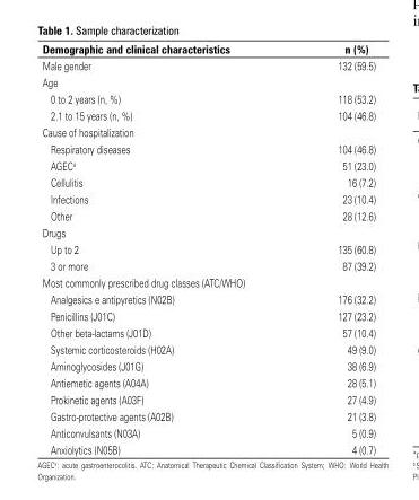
<table><thead><tr><td>Demographic and clinical characteristics</td><td>n (%)</td></tr></thead><tbody><tr><td>Male gender</td><td>132 (59.5)</td></tr><tr><td colspan="2">Age</td></tr><tr><td>0 to 2 years (n, %)</td><td>118 (53.2)</td></tr><tr><td>2.1 to 15 years (n, %)</td><td>104 (46.8)</td></tr><tr><td colspan="2">Cause of hospitalization</td></tr><tr><td>Respiratory diseases</td><td>104 (46.8)</td></tr><tr><td>AGEC<sup>a</sup></td><td>51 (23.0)</td></tr><tr><td>Cellulitis</td><td>16 (7.2)</td></tr><tr><td>Infections</td><td>23 (10.4)</td></tr><tr><td>Other</td><td>28 (12.6)</td></tr><tr><td colspan="2">Drugs</td></tr><tr><td>Up to 2</td><td>135 (60.8)</td></tr><tr><td>3 or more</td><td>87 (39.2)</td></tr><tr><td colspan="2">Most commonly prescribed drug classes (ATC/WHO)</td></tr><tr><td>Analgesics e antipyretics (N02B)</td><td>176 (32.2)</td></tr><tr><td>Penicillins (J01C)</td><td>127 (23.2)</td></tr><tr><td>Other beta-lactams (J01D)</td><td>57 (10.4)</td></tr><tr><td>Systemic corticosteroids (H02A)</td><td>49 (9.0)</td></tr><tr><td>Aminoglycosides (J01G)</td><td>38 (6.9)</td></tr><tr><td>Antiemetic agents (A04A)</td><td>28 (5.1)</td></tr><tr><td>Prokinetic agents (A03F)</td><td>27 (4.9)</td></tr><tr><td>Gastro-protective agents (A02B)</td><td>21 (3.8)</td></tr><tr><td>Anticonvulsants (N03A)</td><td>5 (0.9)</td></tr><tr><td>Anxiolytics (N05B)</td><td>4 (0.7)</td></tr></tbody></table>